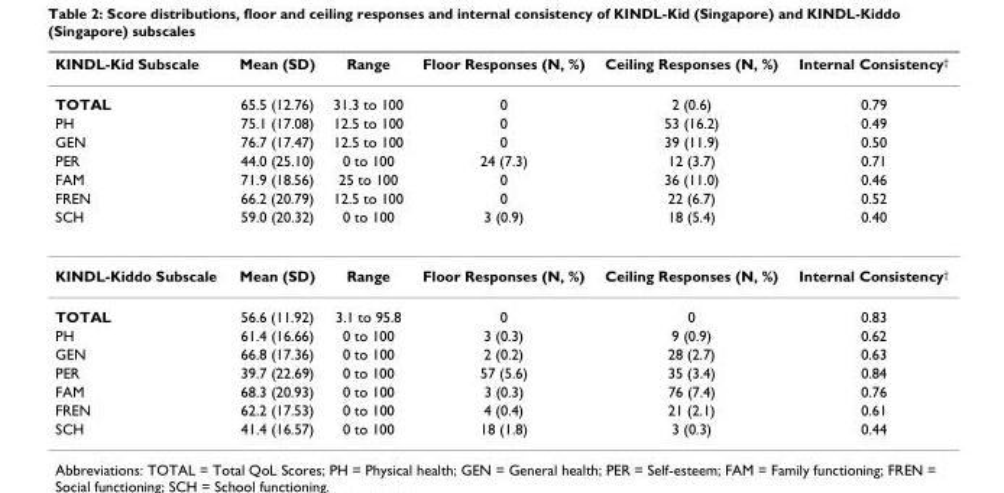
<table><thead><tr><td>KINDL-Kid Subscale</td><td>Mean (SD)</td><td>Range</td><td>Floor Responses (N, %)</td><td>Ceiling Responses (N, %)</td><td>Internal Consistency<sup>†</sup></td></tr></thead><tbody><tr><td>TOTAL</td><td>65.5 (12.76)</td><td>31.3 to 100</td><td>0</td><td>2 (0.6)</td><td>0.79</td></tr><tr><td>PH</td><td>75.1 (17.08)</td><td>12.5 to 100</td><td>0</td><td>53 (16.2)</td><td>0.49</td></tr><tr><td>GEN</td><td>76.7 (17.47)</td><td>12.5 to 100</td><td>0</td><td>39 (11.9)</td><td>0.50</td></tr><tr><td>PER</td><td>44.0 (25.10)</td><td>0 to 100</td><td>24 (7.3)</td><td>12 (3.7)</td><td>0.71</td></tr><tr><td>FAM</td><td>71.9 (18.56)</td><td>25 to 100</td><td>0</td><td>36 (11.0)</td><td>0.46</td></tr><tr><td>FREN</td><td>66.2 (20.79)</td><td>12.5 to 100</td><td>0</td><td>22 (6.7)</td><td>0.52</td></tr><tr><td>SCH</td><td>59.0 (20.32)</td><td>0 to 100</td><td>3 (0.9)</td><td>18 (5.4)</td><td>0.40</td></tr><tr><td>KINDL-Kiddo Subscale</td><td>Mean (SD)</td><td>Range</td><td>Floor Responses (N, %)</td><td>Ceiling Responses (N, %)</td><td>Internal Consistency<sup>†</sup></td></tr><tr><td>TOTAL</td><td>56.6 (11.92)</td><td>3.1 to 95.8</td><td>0</td><td>0</td><td>0.83</td></tr><tr><td>PH</td><td>61.4 (16.66)</td><td>0 to 100</td><td>3 (0.3)</td><td>9 (0.9)</td><td>0.62</td></tr><tr><td>GEN</td><td>66.8 (17.36)</td><td>0 to 100</td><td>2 (0.2)</td><td>28 (2.7)</td><td>0.63</td></tr><tr><td>PER</td><td>39.7 (22.69)</td><td>0 to 100</td><td>57 (5.6)</td><td>35 (3.4)</td><td>0.84</td></tr><tr><td>FAM</td><td>68.3 (20.93)</td><td>0 to 100</td><td>3 (0.3)</td><td>76 (7.4)</td><td>0.76</td></tr><tr><td>FREN</td><td>62.2 (17.53)</td><td>0 to 100</td><td>4 (0.4)</td><td>21 (2.1)</td><td>0.61</td></tr><tr><td>SCH</td><td>41.4 (16.57)</td><td>0 to 100</td><td>18 (1.8)</td><td>3 (0.3)</td><td>0.44</td></tr></tbody></table>